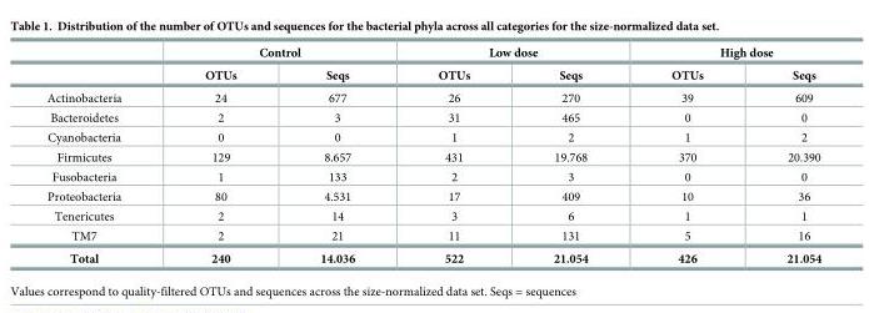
<table><thead><tr><td rowspan="2"></td><td colspan="2">Control</td><td colspan="2">Low dose</td><td colspan="2">High dose</td></tr><tr><td>OTUs</td><td>Seqs</td><td>OTUs</td><td>Seqs</td><td>OTUs</td><td>Seqs</td></tr></thead><tbody><tr><td>Actinobacteria</td><td>24</td><td>677</td><td>26</td><td>270</td><td>39</td><td>609</td></tr><tr><td>Bacteroidetes</td><td>2</td><td>3</td><td>31</td><td>465</td><td>0</td><td>0</td></tr><tr><td>Cyanobacteria</td><td>0</td><td>0</td><td>1</td><td>2</td><td>1</td><td>2</td></tr><tr><td>Firmicutes</td><td>129</td><td>8.657</td><td>431</td><td>19.768</td><td>370</td><td>20.390</td></tr><tr><td>Fusobacteria</td><td>1</td><td>133</td><td>2</td><td>3</td><td>0</td><td>0</td></tr><tr><td>Proteobacteria</td><td>80</td><td>4.531</td><td>17</td><td>409</td><td>10</td><td>36</td></tr><tr><td>Tenericutes</td><td>2</td><td>14</td><td>3</td><td>6</td><td>1</td><td>1</td></tr><tr><td>TM7</td><td>2</td><td>21</td><td>11</td><td>131</td><td>5</td><td>16</td></tr><tr><td>Total</td><td>240</td><td>14.036</td><td>522</td><td>21.054</td><td>426</td><td>21.054</td></tr></tbody></table>